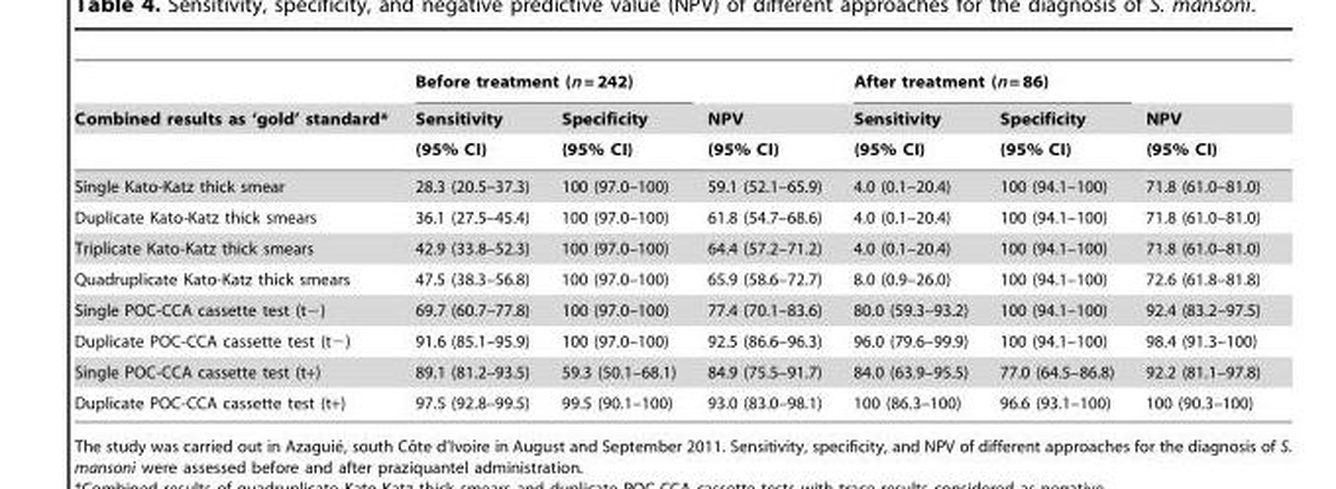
<table><thead><tr><td rowspan="3">Combined results as ‘gold’ standard*</td><td colspan="2">Before treatment (n = 242)</td><td rowspan="3">NPV (95% CI)</td><td colspan="2">After treatment (n = 86)</td><td rowspan="3">NPV (95% CI)</td></tr><tr><td rowspan="2">Sensitivity (95% CI)</td><td rowspan="2">Specificity (95% CI)</td><td rowspan="2">Sensitivity (95% CI)</td><td rowspan="2">Specificity (95% CI)</td></tr><tr></tr></thead><tbody><tr><td>Single Kato-Katz thick smear</td><td>28.3 (20.5–37.3)</td><td>100 (97.0–100)</td><td>59.1 (52.1–65.9)</td><td>4.0 (0.1–20.4)</td><td>100 (94.1–100)</td><td>71.8 (61.0–81.0)</td></tr><tr><td>Duplicate Kato-Katz thick smears</td><td>36.1 (27.5–45.4)</td><td>100 (97.0–100)</td><td>61.8 (54.7–68.6)</td><td>4.0 (0.1–20.4)</td><td>100 (94.1–100)</td><td>71.8 (61.0–81.0)</td></tr><tr><td>Triplicate Kato-Katz thick smears</td><td>42.9 (33.8–52.3)</td><td>100 (97.0–100)</td><td>64.4 (57.2–71.2)</td><td>4.0 (0.1–20.4)</td><td>100 (94.1–100)</td><td>71.8 (61.0–81.0)</td></tr><tr><td>Quadruplicate Kato-Katz thick smears</td><td>47.5 (38.3–56.8)</td><td>100 (97.0–100)</td><td>65.9 (58.6–72.7)</td><td>8.0 (0.9–26.0)</td><td>100 (94.1–100)</td><td>72.6 (61.8–81.8)</td></tr><tr><td>Single POC-CCA cassette test (t−)</td><td>69.7 (60.7–77.8)</td><td>100 (97.0–100)</td><td>77.4 (70.1–83.6)</td><td>80.0 (59.3–93.2)</td><td>100 (94.1–100)</td><td>92.4 (83.2–97.5)</td></tr><tr><td>Duplicate POC-CCA cassette test (t−)</td><td>91.6 (85.1–95.9)</td><td>100 (97.0–100)</td><td>92.5 (86.6–96.3)</td><td>96.0 (79.6–99.9)</td><td>100 (94.1–100)</td><td>98.4 (91.3–100)</td></tr><tr><td>Single POC-CCA cassette test (t+)</td><td>89.1 (81.2–93.5)</td><td>59.3 (50.1–68.1)</td><td>84.9 (75.5–91.7)</td><td>84.0 (63.9–95.5)</td><td>77.0 (64.5–86.8)</td><td>92.2 (81.1–97.8)</td></tr><tr><td>Duplicate POC-CCA cassette test (t+)</td><td>97.5 (92.8–99.5)</td><td>99.5 (90.1–100)</td><td>93.0 (83.0–98.1)</td><td>100 (86.3–100)</td><td>96.6 (93.1–100)</td><td>100 (90.3–100)</td></tr></tbody></table>